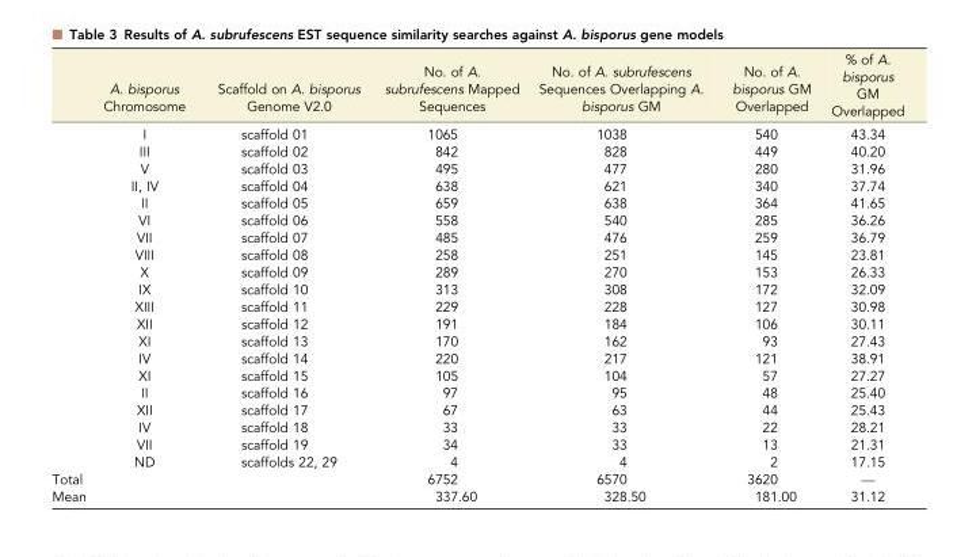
<table><thead><tr><td></td><td>A. bisporus Chromosome</td><td>Scaffold on A. bisporus Genome V2.0</td><td>No. of A. subrufescens Mapped Sequences</td><td>No. of A. subrufescens Sequences Overlapping A. bisporus GM</td><td>No. of A. bisporus GM Overlapped</td><td>% of A. bisporus GM Overlapped</td></tr></thead><tbody><tr><td></td><td>I</td><td>scaffold 01</td><td>1065</td><td>1038</td><td>540</td><td>43.34</td></tr><tr><td></td><td>III</td><td>scaffold 02</td><td>842</td><td>828</td><td>449</td><td>40.20</td></tr><tr><td></td><td>V</td><td>scaffold 03</td><td>495</td><td>477</td><td>280</td><td>31.96</td></tr><tr><td></td><td>II, IV</td><td>scaffold 04</td><td>638</td><td>621</td><td>340</td><td>37.74</td></tr><tr><td></td><td>II</td><td>scaffold 05</td><td>659</td><td>638</td><td>364</td><td>41.65</td></tr><tr><td></td><td>VI</td><td>scaffold 06</td><td>558</td><td>540</td><td>285</td><td>36.26</td></tr><tr><td></td><td>VII</td><td>scaffold 07</td><td>485</td><td>476</td><td>259</td><td>36.79</td></tr><tr><td></td><td>VIII</td><td>scaffold 08</td><td>258</td><td>251</td><td>145</td><td>23.81</td></tr><tr><td></td><td>X</td><td>scaffold 09</td><td>289</td><td>270</td><td>153</td><td>26.33</td></tr><tr><td></td><td>IX</td><td>scaffold 10</td><td>313</td><td>308</td><td>172</td><td>32.09</td></tr><tr><td></td><td>XIII</td><td>scaffold 11</td><td>229</td><td>228</td><td>127</td><td>30.98</td></tr><tr><td></td><td>XII</td><td>scaffold 12</td><td>191</td><td>184</td><td>106</td><td>30.11</td></tr><tr><td></td><td>XI</td><td>scaffold 13</td><td>170</td><td>162</td><td>93</td><td>27.43</td></tr><tr><td></td><td>IV</td><td>scaffold 14</td><td>220</td><td>217</td><td>121</td><td>38.91</td></tr><tr><td></td><td>XI</td><td>scaffold 15</td><td>105</td><td>104</td><td>57</td><td>27.27</td></tr><tr><td></td><td>II</td><td>scaffold 16</td><td>97</td><td>95</td><td>48</td><td>25.40</td></tr><tr><td></td><td>XII</td><td>scaffold 17</td><td>67</td><td>63</td><td>44</td><td>25.43</td></tr><tr><td></td><td>IV</td><td>scaffold 18</td><td>33</td><td>33</td><td>22</td><td>28.21</td></tr><tr><td></td><td>VII</td><td>scaffold 19</td><td>34</td><td>33</td><td>13</td><td>21.31</td></tr><tr><td></td><td>ND</td><td>scaffolds 22, 29</td><td>4</td><td>4</td><td>2</td><td>17.15</td></tr><tr><td>Total</td><td></td><td></td><td>6752</td><td>6570</td><td>3620</td><td>—</td></tr><tr><td>Mean</td><td></td><td></td><td>337.60</td><td>328.50</td><td>181.00</td><td>31.12</td></tr></tbody></table>